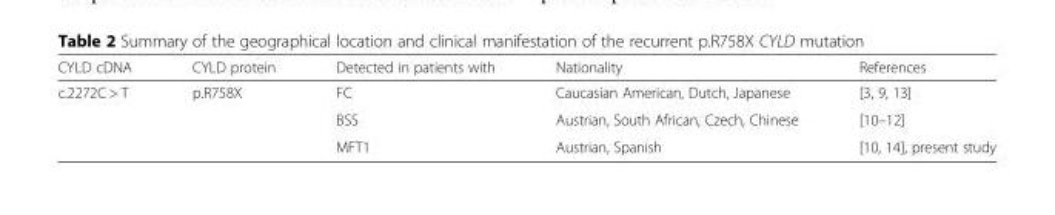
<table><thead><tr><td>CYLD cDNA</td><td>CYLD protein</td><td>Detected in patients with</td><td>Nationality</td><td>References</td></tr></thead><tbody><tr><td rowspan="3">c.2272C &gt; T</td><td rowspan="3">p.R758X</td><td>FC</td><td>Caucasian American, Dutch, Japanese</td><td>[3, 9, 13]</td></tr><tr><td>BSS</td><td>Austrian, South African, Czech, Chinese</td><td>[10–12]</td></tr><tr><td>MFT1</td><td>Austrian, Spanish</td><td>[10, 14], present study</td></tr></tbody></table>